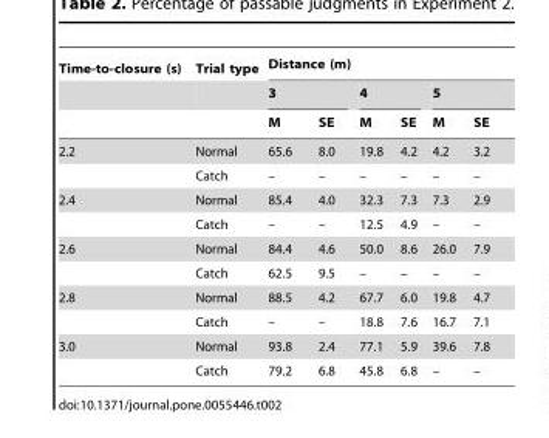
<table><thead><tr><td rowspan="3">Time-to-closure (s)</td><td rowspan="3">Trial type</td><td colspan="6">Distance (m)</td></tr><tr><td colspan="2">3</td><td colspan="2">4</td><td colspan="2">5</td></tr><tr><td>M</td><td>SE</td><td>M</td><td>SE</td><td>M</td><td>SE</td></tr></thead><tbody><tr><td rowspan="2">2.2</td><td>Normal</td><td>65.6</td><td>8.0</td><td>19.8</td><td>4.2</td><td>4.2</td><td>3.2</td></tr><tr><td>Catch</td><td>–</td><td>–</td><td>–</td><td>–</td><td>–</td><td>–</td></tr><tr><td rowspan="2">2.4</td><td>Normal</td><td>85.4</td><td>4.0</td><td>32.3</td><td>7.3</td><td>7.3</td><td>2.9</td></tr><tr><td>Catch</td><td>–</td><td>–</td><td>12.5</td><td>4.9</td><td>–</td><td>–</td></tr><tr><td rowspan="2">2.6</td><td>Normal</td><td>84.4</td><td>4.6</td><td>50.0</td><td>8.6</td><td>26.0</td><td>7.9</td></tr><tr><td>Catch</td><td>62.5</td><td>9.5</td><td>–</td><td>–</td><td>–</td><td>–</td></tr><tr><td rowspan="2">2.8</td><td>Normal</td><td>88.5</td><td>4.2</td><td>67.7</td><td>6.0</td><td>19.8</td><td>4.7</td></tr><tr><td>Catch</td><td>–</td><td>–</td><td>18.8</td><td>7.6</td><td>16.7</td><td>7.1</td></tr><tr><td rowspan="2">3.0</td><td>Normal</td><td>93.8</td><td>2.4</td><td>77.1</td><td>5.9</td><td>39.6</td><td>7.8</td></tr><tr><td>Catch</td><td>79.2</td><td>6.8</td><td>45.8</td><td>6.8</td><td>–</td><td>–</td></tr></tbody></table>